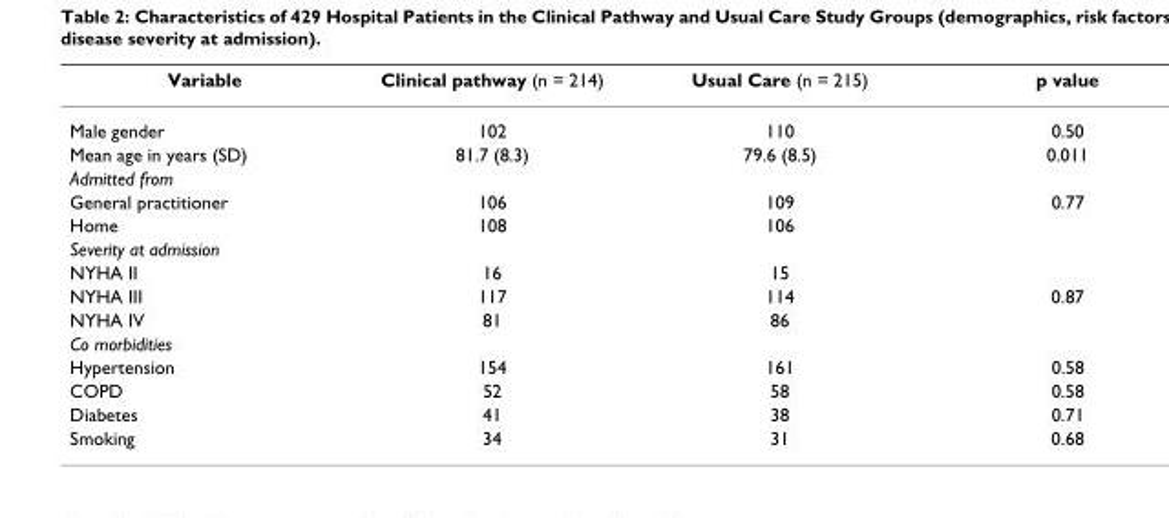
<table><thead><tr><td>Variable</td><td>Clinical pathway (n = 214)</td><td>Usual Care (n = 215)</td><td>p value</td></tr></thead><tbody><tr><td>Male gender</td><td>102</td><td>110</td><td>0.50</td></tr><tr><td>Mean age in years (SD)</td><td>81.7 (8.3)</td><td>79.6 (8.5)</td><td>0.011</td></tr><tr><td colspan="4">Admitted from</td></tr><tr><td>General practitioner</td><td>106</td><td>109</td><td>0.77</td></tr><tr><td>Home</td><td>108</td><td>106</td><td></td></tr><tr><td colspan="4">Severity at admission</td></tr><tr><td>NYHA II</td><td>16</td><td>15</td><td></td></tr><tr><td>NYHA III</td><td>117</td><td>114</td><td>0.87</td></tr><tr><td>NYHA IV</td><td>81</td><td>86</td><td></td></tr><tr><td colspan="4">Co morbidities</td></tr><tr><td>Hypertension</td><td>154</td><td>161</td><td>0.58</td></tr><tr><td>COPD</td><td>52</td><td>58</td><td>0.58</td></tr><tr><td>Diabetes</td><td>41</td><td>38</td><td>0.71</td></tr><tr><td>Smoking</td><td>34</td><td>31</td><td>0.68</td></tr></tbody></table>